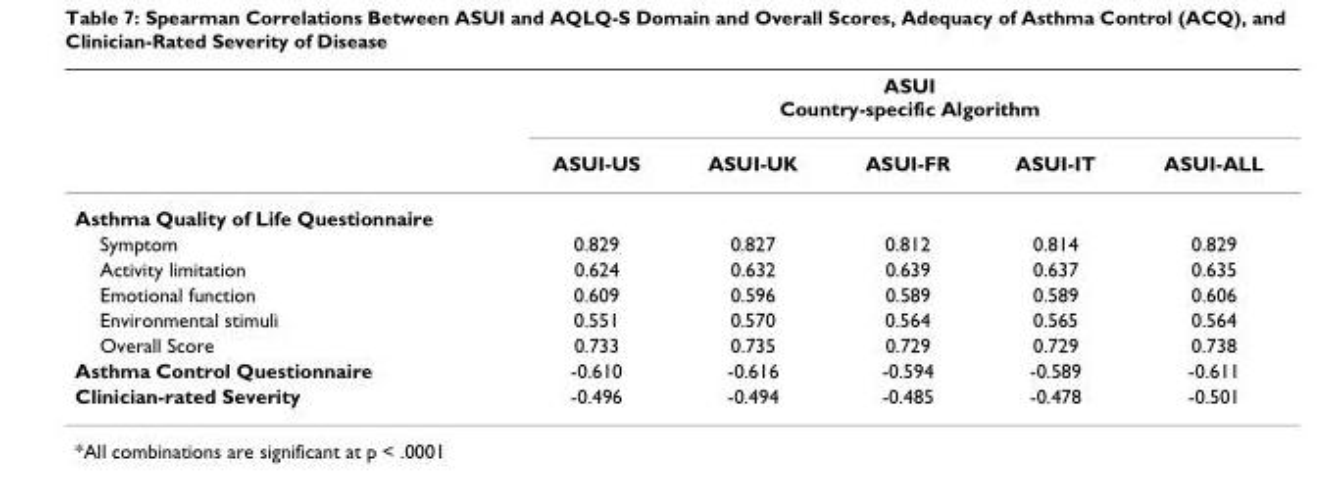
<table><thead><tr><td rowspan="2"></td><td colspan="5">ASUI Country-specific Algorithm</td></tr><tr><td>ASUI-US</td><td>ASUI-UK</td><td>ASUI-FR</td><td>ASUI-IT</td><td>ASUI-ALL</td></tr></thead><tbody><tr><td colspan="6">Asthma Quality of Life Questionnaire</td></tr><tr><td>Symptom</td><td>0.829</td><td>0.827</td><td>0.812</td><td>0.814</td><td>0.829</td></tr><tr><td>Activity limitation</td><td>0.624</td><td>0.632</td><td>0.639</td><td>0.637</td><td>0.635</td></tr><tr><td>Emotional function</td><td>0.609</td><td>0.596</td><td>0.589</td><td>0.589</td><td>0.606</td></tr><tr><td>Environmental stimuli</td><td>0.551</td><td>0.570</td><td>0.564</td><td>0.565</td><td>0.564</td></tr><tr><td>Overall Score</td><td>0.733</td><td>0.735</td><td>0.729</td><td>0.729</td><td>0.738</td></tr><tr><td>Asthma Control Questionnaire</td><td>-0.610</td><td>-0.616</td><td>-0.594</td><td>-0.589</td><td>-0.611</td></tr><tr><td>Clinician-rated Severity</td><td>-0.496</td><td>-0.494</td><td>-0.485</td><td>-0.478</td><td>-0.501</td></tr></tbody></table>